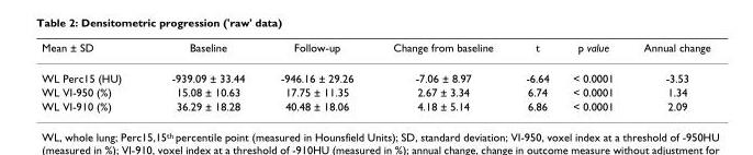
<table><thead><tr><td>Mean ± SD</td><td>Baseline</td><td>Follow-up</td><td>Change from baseline</td><td>t</td><td>p value</td><td>Annual change</td></tr></thead><tbody><tr><td>WL Perc15 (HU)</td><td>-939.09 ± 33.44</td><td>-946.16 ± 29.26</td><td>-7.06 ± 8.97</td><td>-6.64</td><td>&lt; 0.0001</td><td>-3.53</td></tr><tr><td>WL VI-950 (%)</td><td>15.08 ± 10.63</td><td>17.75 ± 11.35</td><td>2.67 ± 3.34</td><td>6.74</td><td>&lt; 0.0001</td><td>1.34</td></tr><tr><td>WL VI-910 (%)</td><td>36.29 ± 18.28</td><td>40.48 ± 18.06</td><td>4.18 ± 5.14</td><td>6.86</td><td>&lt; 0.0001</td><td>2.09</td></tr></tbody></table>